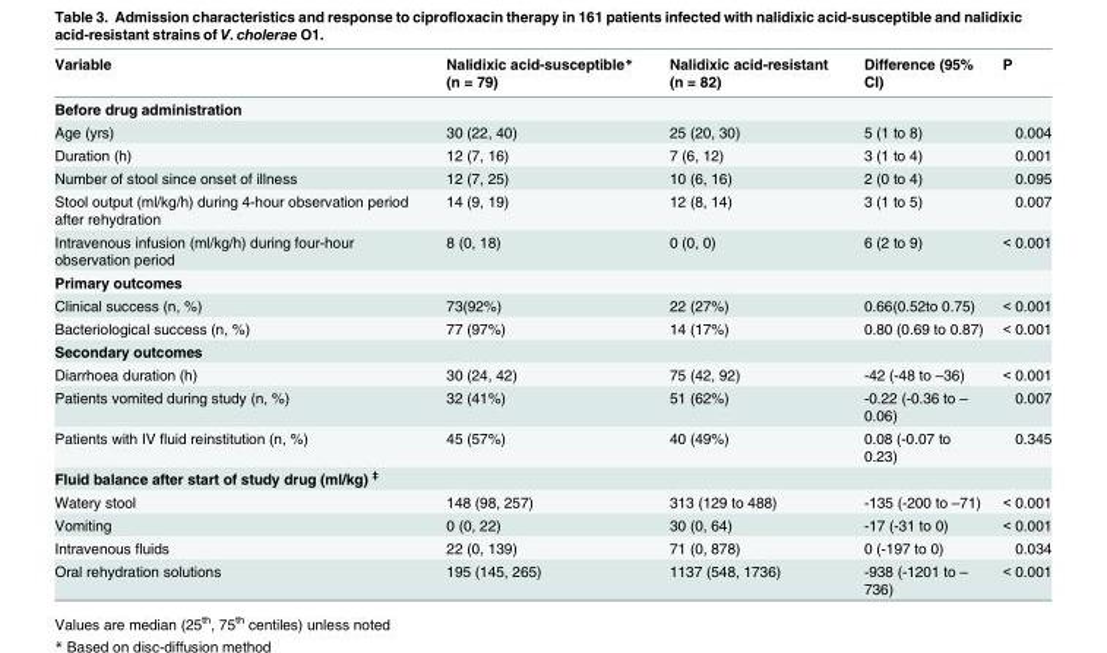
<table><thead><tr><td>Variable</td><td>Nalidixic acid-susceptible* (n = 79)</td><td>Nalidixic acid-resistant (n = 82)</td><td>Difference (95% CI)</td><td>P</td></tr></thead><tbody><tr><td colspan="5">Before drug administration</td></tr><tr><td>Age (yrs)</td><td>30 (22, 40)</td><td>25 (20, 30)</td><td>5 (1 to 8)</td><td>0.004</td></tr><tr><td>Duration (h)</td><td>12 (7, 16)</td><td>7 (6, 12)</td><td>3 (1 to 4)</td><td>0.001</td></tr><tr><td>Number of stool since onset of illness</td><td>12 (7, 25)</td><td>10 (6, 16)</td><td>2 (0 to 4)</td><td>0.095</td></tr><tr><td>Stool output (ml/kg/h) during 4-hour observation period after rehydration</td><td>14 (9, 19)</td><td>12 (8, 14)</td><td>3 (1 to 5)</td><td>0.007</td></tr><tr><td>Intravenous infusion (ml/kg/h) during four-hour observation period</td><td>8 (0, 18)</td><td>0 (0, 0)</td><td>6 (2 to 9)</td><td>&lt; 0.001</td></tr><tr><td colspan="5">Primary outcomes</td></tr><tr><td>Clinical success (n, %)</td><td>73(92%)</td><td>22 (27%)</td><td>0.66(0.52to 0.75)</td><td>&lt; 0.001</td></tr><tr><td>Bacteriological success (n, %)</td><td>77 (97%)</td><td>14 (17%)</td><td>0.80 (0.69 to 0.87)</td><td>&lt; 0.001</td></tr><tr><td colspan="5">Secondary outcomes</td></tr><tr><td>Diarrhoea duration (h)</td><td>30 (24, 42)</td><td>75 (42, 92)</td><td>-42 (-48 to –36)</td><td>&lt; 0.001</td></tr><tr><td>Patients vomited during study (n, %)</td><td>32 (41%)</td><td>51 (62%)</td><td>-0.22 (-0.36 to – 0.06)</td><td>0.007</td></tr><tr><td>Patients with IV fluid reinstitution (n, %)</td><td>45 (57%)</td><td>40 (49%)</td><td>0.08 (-0.07 to 0.23)</td><td>0.345</td></tr><tr><td colspan="5">Fluid balance after start of study drug (ml/kg) <sup>‡</sup></td></tr><tr><td>Watery stool</td><td>148 (98, 257)</td><td>313 (129 to 488)</td><td>-135 (-200 to –71)</td><td>&lt; 0.001</td></tr><tr><td>Vomiting</td><td>0 (0, 22)</td><td>30 (0, 64)</td><td>-17 (-31 to 0)</td><td>&lt; 0.001</td></tr><tr><td>Intravenous fluids</td><td>22 (0, 139)</td><td>71 (0, 878)</td><td>0 (-197 to 0)</td><td>0.034</td></tr><tr><td>Oral rehydration solutions</td><td>195 (145, 265)</td><td>1137 (548, 1736)</td><td>-938 (-1201 to – 736)</td><td>&lt; 0.001</td></tr></tbody></table>